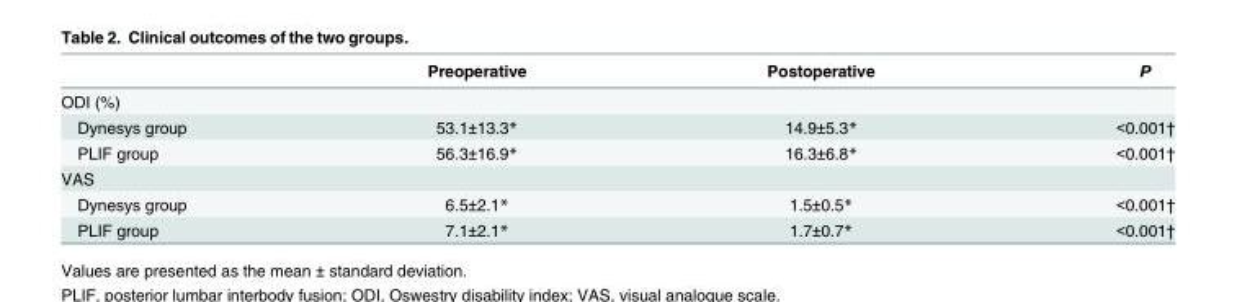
<table><thead><tr><td></td><td>Preoperative</td><td>Postoperative</td><td>P</td></tr></thead><tbody><tr><td colspan="4">ODI (%)</td></tr><tr><td>Dynesys group</td><td>53.1±13.3*</td><td>14.9±5.3*</td><td>&lt;0.001†</td></tr><tr><td>PLIF group</td><td>56.3±16.9*</td><td>16.3±6.8*</td><td>&lt;0.001†</td></tr><tr><td colspan="4">VAS</td></tr><tr><td>Dynesys group</td><td>6.5±2.1*</td><td>1.5±0.5*</td><td>&lt;0.001†</td></tr><tr><td>PLIF group</td><td>7.1±2.1*</td><td>1.7±0.7*</td><td>&lt;0.001†</td></tr></tbody></table>